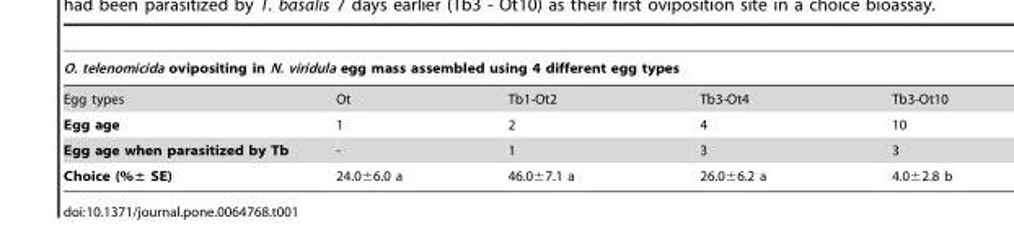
<table><thead><tr><td colspan="5">O. telenomicida ovipositing in N. viridula egg mass assembled using 4 different egg types</td></tr><tr><td>Egg types</td><td>Ot</td><td>Tb1-Ot2</td><td>Tb3-Ot4</td><td>Tb3-Ot10</td></tr></thead><tbody><tr><td>Egg age</td><td>1</td><td>2</td><td>4</td><td>10</td></tr><tr><td>Egg age when parasitized by Tb</td><td>-</td><td>1</td><td>3</td><td>3</td></tr><tr><td>Choice (%± SE)</td><td>24.0±6.0 a</td><td>46.0±7.1 a</td><td>26.0±6.2 a</td><td>4.0±2.8 b</td></tr></tbody></table>